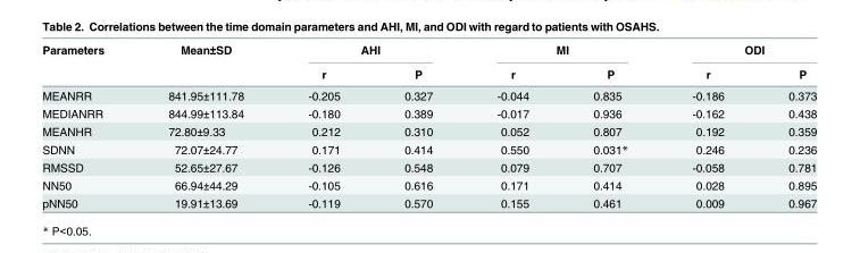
<table><thead><tr><td rowspan="2">Parameters</td><td rowspan="2">Mean±SD</td><td colspan="2">AHI</td><td colspan="2">MI</td><td colspan="2">ODI</td></tr><tr><td>r</td><td>P</td><td>r</td><td>P</td><td>r</td><td>P</td></tr></thead><tbody><tr><td>MEANRR</td><td>841.95±111.78</td><td>-0.205</td><td>0.327</td><td>-0.044</td><td>0.835</td><td>-0.186</td><td>0.373</td></tr><tr><td>MEDIANRR</td><td>844.99±113.84</td><td>-0.180</td><td>0.389</td><td>-0.017</td><td>0.936</td><td>-0.162</td><td>0.438</td></tr><tr><td>MEANHR</td><td>72.80±9.33</td><td>0.212</td><td>0.310</td><td>0.052</td><td>0.807</td><td>0.192</td><td>0.359</td></tr><tr><td>SDNN</td><td>72.07±24.77</td><td>0.171</td><td>0.414</td><td>0.550</td><td>0.031*</td><td>0.246</td><td>0.236</td></tr><tr><td>RMSSD</td><td>52.65±27.67</td><td>-0.126</td><td>0.548</td><td>0.079</td><td>0.707</td><td>-0.058</td><td>0.781</td></tr><tr><td>NN50</td><td>66.94±44.29</td><td>-0.105</td><td>0.616</td><td>0.171</td><td>0.414</td><td>0.028</td><td>0.895</td></tr><tr><td>pNN50</td><td>19.91±13.69</td><td>-0.119</td><td>0.570</td><td>0.155</td><td>0.461</td><td>0.009</td><td>0.967</td></tr></tbody></table>